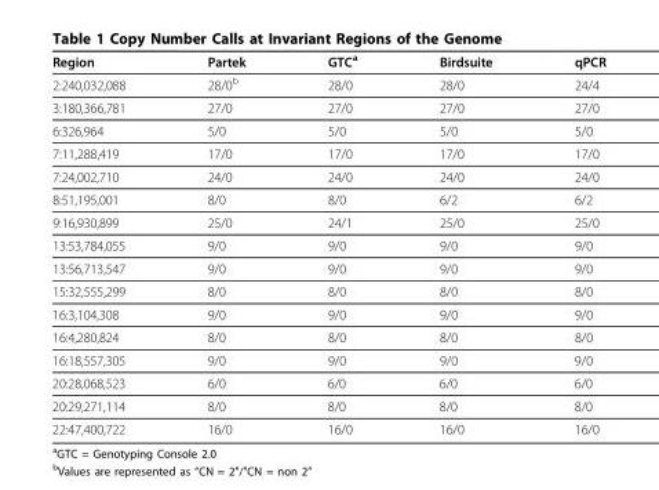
<table><thead><tr><td>Region</td><td>Partek</td><td>GTC<sup>a</sup></td><td>Birdsuite</td><td>qPCR</td></tr></thead><tbody><tr><td>2:240,032,088</td><td>28/0<sup>b</sup></td><td>28/0</td><td>28/0</td><td>24/4</td></tr><tr><td>3:180,366,781</td><td>27/0</td><td>27/0</td><td>27/0</td><td>27/0</td></tr><tr><td>6:326,964</td><td>5/0</td><td>5/0</td><td>5/0</td><td>5/0</td></tr><tr><td>7:11,288,419</td><td>17/0</td><td>17/0</td><td>17/0</td><td>17/0</td></tr><tr><td>7:24,002,710</td><td>24/0</td><td>24/0</td><td>24/0</td><td>24/0</td></tr><tr><td>8:51,195,001</td><td>8/0</td><td>8/0</td><td>6/2</td><td>6/2</td></tr><tr><td>9:16,930,899</td><td>25/0</td><td>24/1</td><td>25/0</td><td>25/0</td></tr><tr><td>13:53,784,055</td><td>9/0</td><td>9/0</td><td>9/0</td><td>9/0</td></tr><tr><td>13:56,713,547</td><td>9/0</td><td>9/0</td><td>9/0</td><td>9/0</td></tr><tr><td>15:32,555,299</td><td>8/0</td><td>8/0</td><td>8/0</td><td>8/0</td></tr><tr><td>16:3,104,308</td><td>9/0</td><td>9/0</td><td>9/0</td><td>9/0</td></tr><tr><td>16:4,280,824</td><td>8/0</td><td>8/0</td><td>8/0</td><td>8/0</td></tr><tr><td>16:18,557,305</td><td>9/0</td><td>9/0</td><td>9/0</td><td>9/0</td></tr><tr><td>20:28,068,523</td><td>6/0</td><td>6/0</td><td>6/0</td><td>6/0</td></tr><tr><td>20:29,271,114</td><td>8/0</td><td>8/0</td><td>8/0</td><td>8/0</td></tr><tr><td>22:47,400,722</td><td>16/0</td><td>16/0</td><td>16/0</td><td>16/0</td></tr></tbody></table>